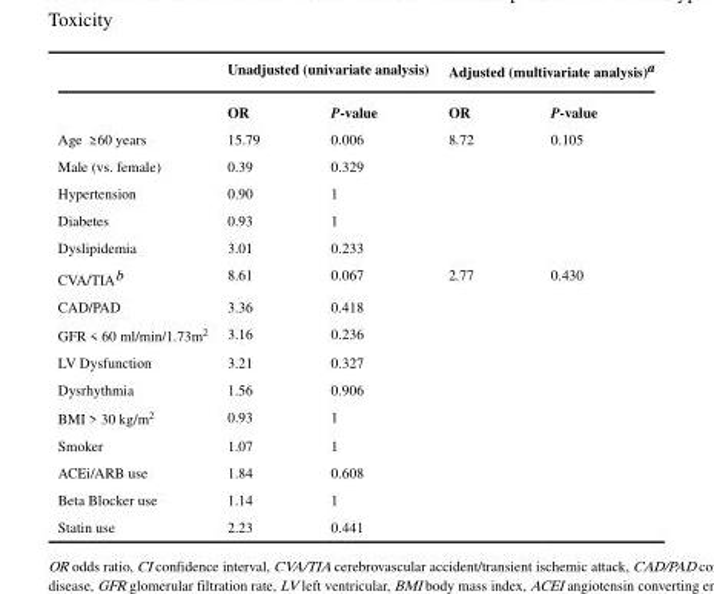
<table><thead><tr><td rowspan="2"></td><td colspan="2">Unadjusted (univariate analysis)</td><td colspan="2">Adjusted (multivariate analysis)<sup>a</sup></td></tr><tr><td>OR</td><td>P-value</td><td>OR</td><td>P-value</td></tr></thead><tbody><tr><td>Age ≥ 60 years</td><td>15.79</td><td>0.006</td><td>8.72</td><td>0.105</td></tr><tr><td>Male (vs. female)</td><td>0.39</td><td>0.329</td><td></td><td></td></tr><tr><td>Hypertension</td><td>0.90</td><td>1</td><td></td><td></td></tr><tr><td>Diabetes</td><td>0.93</td><td>1</td><td></td><td></td></tr><tr><td>Dyslipidemia</td><td>3.01</td><td>0.233</td><td></td><td></td></tr><tr><td>CVA/TIA<sup>b</sup></td><td>8.61</td><td>0.067</td><td>2.77</td><td>0.430</td></tr><tr><td>CAD/PAD</td><td>3.36</td><td>0.418</td><td></td><td></td></tr><tr><td>GFR &lt; 60 ml/min/1.73m<sup>2</sup></td><td>3.16</td><td>0.236</td><td></td><td></td></tr><tr><td>LV Dysfunction</td><td>3.21</td><td>0.327</td><td></td><td></td></tr><tr><td>Dysrhythmia</td><td>1.56</td><td>0.906</td><td></td><td></td></tr><tr><td>BMI &gt; 30 kg/m<sup>2</sup></td><td>0.93</td><td>1</td><td></td><td></td></tr><tr><td>Smoker</td><td>1.07</td><td>1</td><td></td><td></td></tr><tr><td>ACEi/ARB use</td><td>1.84</td><td>0.608</td><td></td><td></td></tr><tr><td>Beta Blocker use</td><td>1.14</td><td>1</td><td></td><td></td></tr><tr><td>Statin use</td><td>2.23</td><td>0.441</td><td></td><td></td></tr></tbody></table>